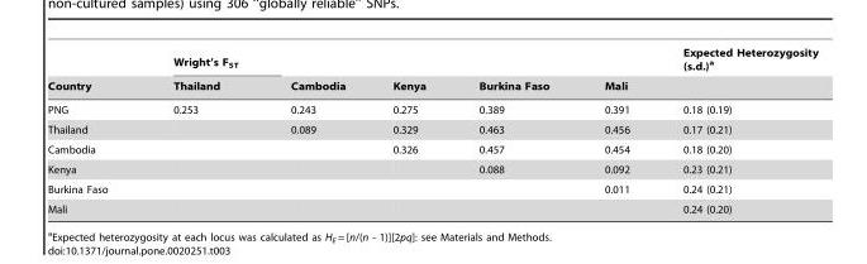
<table><thead><tr><td rowspan="2">Country</td><td rowspan="2">Wright’s F<sub>ST</sub> Thailand</td><td rowspan="2">Cambodia</td><td rowspan="2">Kenya</td><td rowspan="2">Burkina Faso</td><td rowspan="2">Mali</td><td rowspan="2">Expected Heterozygosity (s.d.)<sup>a</sup></td></tr><tr></tr></thead><tbody><tr><td>PNG</td><td>0.253</td><td>0.243</td><td>0.275</td><td>0.389</td><td>0.391</td><td>0.18 (0.19)</td></tr><tr><td>Thailand</td><td></td><td>0.089</td><td>0.329</td><td>0.463</td><td>0.456</td><td>0.17 (0.21)</td></tr><tr><td>Cambodia</td><td></td><td></td><td>0.326</td><td>0.457</td><td>0.454</td><td>0.18 (0.20)</td></tr><tr><td>Kenya</td><td></td><td></td><td></td><td>0.088</td><td>0.092</td><td>0.23 (0.21)</td></tr><tr><td>Burkina Faso</td><td></td><td></td><td></td><td></td><td>0.011</td><td>0.24 (0.21)</td></tr><tr><td>Mali</td><td></td><td></td><td></td><td></td><td></td><td>0.24 (0.20)</td></tr></tbody></table>